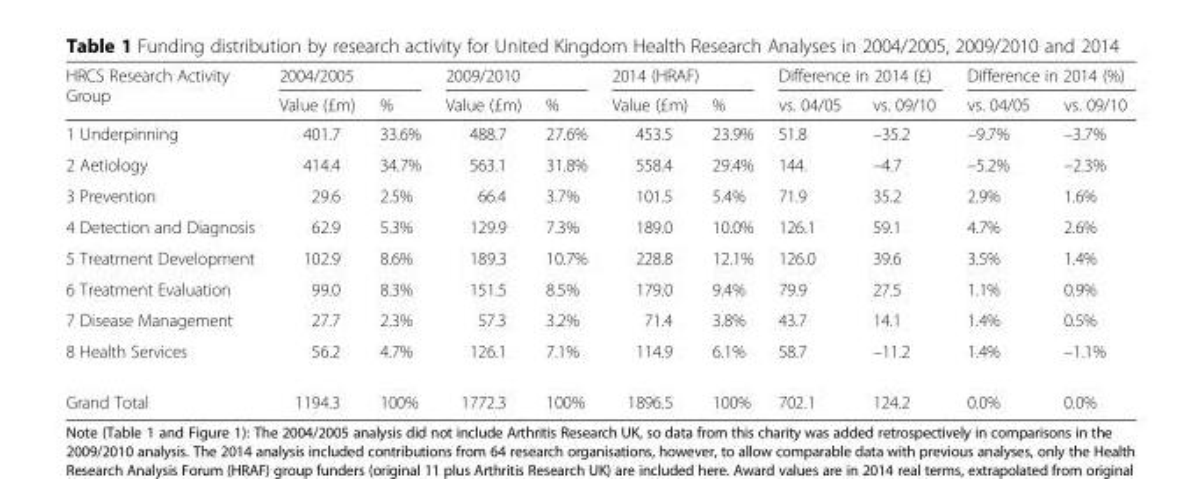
<table><thead><tr><td rowspan="2">HRCS Research Activity Group</td><td colspan="2">2004/2005</td><td colspan="2">2009/2010</td><td colspan="2">2014 (HRAF)</td><td colspan="2">Difference in 2014 (£)</td><td colspan="2">Difference in 2014 (%)</td></tr><tr><td>Value (£m)</td><td>%</td><td>Value (£m)</td><td>%</td><td>Value (£m)</td><td>%</td><td>vs. 04/05</td><td>vs. 09/10</td><td>vs. 04/05</td><td>vs. 09/10</td></tr></thead><tbody><tr><td>1 Underpinning</td><td>401.7</td><td>33.6%</td><td>488.7</td><td>27.6%</td><td>453.5</td><td>23.9%</td><td>51.8</td><td>–35.2</td><td>–9.7%</td><td>–3.7%</td></tr><tr><td>2 Aetiology</td><td>414.4</td><td>34.7%</td><td>563.1</td><td>31.8%</td><td>558.4</td><td>29.4%</td><td>144.</td><td>–4.7</td><td>–5.2%</td><td>–2.3%</td></tr><tr><td>3 Prevention</td><td>29.6</td><td>2.5%</td><td>66.4</td><td>3.7%</td><td>101.5</td><td>5.4%</td><td>71.9</td><td>35.2</td><td>2.9%</td><td>1.6%</td></tr><tr><td>4 Detection and Diagnosis</td><td>62.9</td><td>5.3%</td><td>129.9</td><td>7.3%</td><td>189.0</td><td>10.0%</td><td>126.1</td><td>59.1</td><td>4.7%</td><td>2.6%</td></tr><tr><td>5 Treatment Development</td><td>102.9</td><td>8.6%</td><td>189.3</td><td>10.7%</td><td>228.8</td><td>12.1%</td><td>126.0</td><td>39.6</td><td>3.5%</td><td>1.4%</td></tr><tr><td>6 Treatment Evaluation</td><td>99.0</td><td>8.3%</td><td>151.5</td><td>8.5%</td><td>179.0</td><td>9.4%</td><td>79.9</td><td>27.5</td><td>1.1%</td><td>0.9%</td></tr><tr><td>7 Disease Management</td><td>27.7</td><td>2.3%</td><td>57.3</td><td>3.2%</td><td>71.4</td><td>3.8%</td><td>43.7</td><td>14.1</td><td>1.4%</td><td>0.5%</td></tr><tr><td>8 Health Services</td><td>56.2</td><td>4.7%</td><td>126.1</td><td>7.1%</td><td>114.9</td><td>6.1%</td><td>58.7</td><td>–11.2</td><td>1.4%</td><td>–1.1%</td></tr><tr><td>Grand Total</td><td>1194.3</td><td>100%</td><td>1772.3</td><td>100%</td><td>1896.5</td><td>100%</td><td>702.1</td><td>124.2</td><td>0.0%</td><td>0.0%</td></tr></tbody></table>